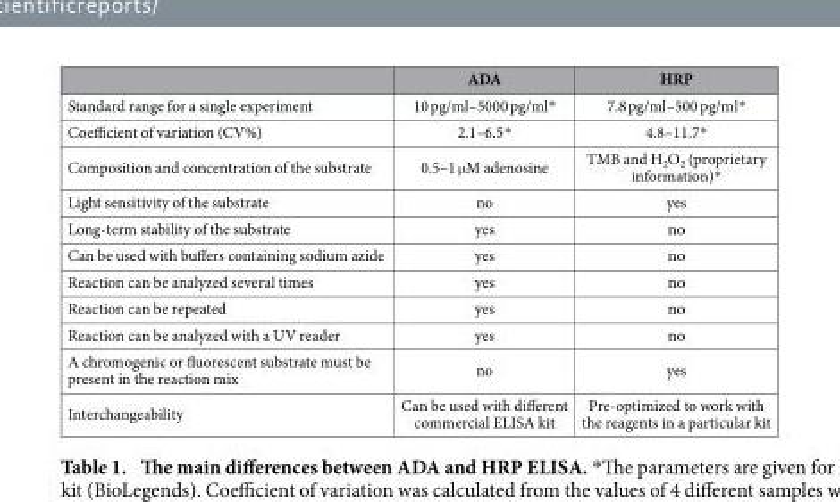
<table><thead><tr><td></td><td>ADA</td><td>HRP</td></tr></thead><tbody><tr><td>Standard range for a single experiment</td><td>10 pg/ml–5000 pg/ml*</td><td>7.8 pg/ml–500 pg/ml*</td></tr><tr><td>Coefficient of variation (CV%)</td><td>2.1–6.5*</td><td>4.8–11.7*</td></tr><tr><td>Composition and concentration of the substrate</td><td>0.5–1 μ M adenosine</td><td>TMB and H<sub>2</sub>O<sub>2</sub> (proprietary information)*</td></tr><tr><td>Light sensitivity of the substrate</td><td>no</td><td>yes</td></tr><tr><td>Long-term stability of the substrate</td><td>yes</td><td>no</td></tr><tr><td>Can be used with buffers containing sodium azide</td><td>yes</td><td>no</td></tr><tr><td>Reaction can be analyzed several times</td><td>yes</td><td>no</td></tr><tr><td>Reaction can be repeated</td><td>yes</td><td>no</td></tr><tr><td>Reaction can be analyzed with a UV reader</td><td>yes</td><td>no</td></tr><tr><td>A chromogenic or fluorescent substrate must be present in the reaction mix</td><td>no</td><td>yes</td></tr><tr><td>Interchangeability</td><td>Can be used with different commercial ELISA kit</td><td>Pre-optimized to work with the reagents in a particular kit</td></tr></tbody></table>